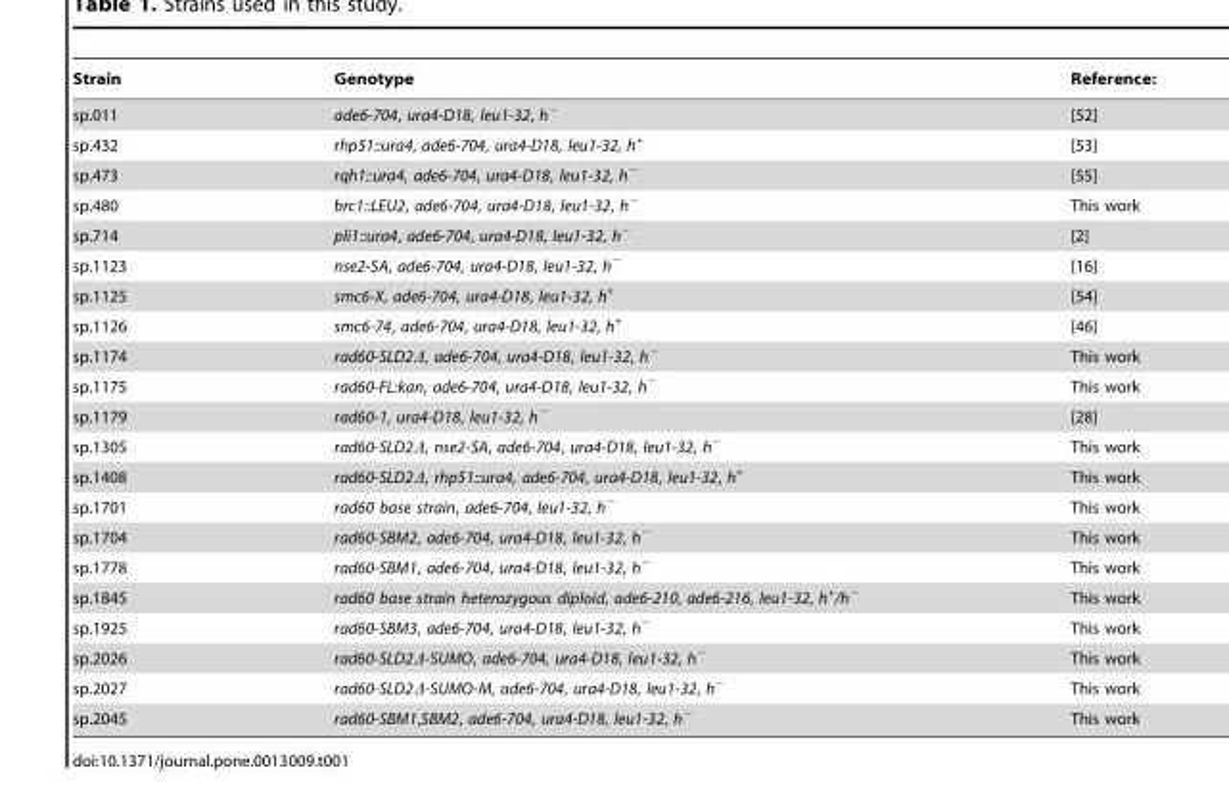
<table><thead><tr><td>Strain</td><td>Genotype</td><td>Reference:</td></tr></thead><tbody><tr><td>sp.011</td><td>ade6-704, ura4-D18, leu1-32, h<sup>−</sup></td><td>[52]</td></tr><tr><td>sp.432</td><td>rhp51::ura4, ade6-704, ura4-D18, leu1-32, h<sup>+</sup></td><td>[53]</td></tr><tr><td>sp.473</td><td>rqh1::ura4, ade6-704, ura4-D18, leu1-32, h<sup>−</sup></td><td>[55]</td></tr><tr><td>sp.480</td><td>brc1::LEU2, ade6-704, ura4-D18, leu1-32, h<sup>−</sup></td><td>This work</td></tr><tr><td>sp.714</td><td>pli1::ura4, ade6-704, ura4-D18, leu1-32, h<sup>−</sup></td><td>[2]</td></tr><tr><td>sp.1123</td><td>nse2-SA, ade6-704, ura4-D18, leu1-32, h<sup>−</sup></td><td>[16]</td></tr><tr><td>sp.1125</td><td>smc6-X, ade6-704, ura4-D18, leu1-32, h<sup>+</sup></td><td>[54]</td></tr><tr><td>sp.1126</td><td>smc6-74, ade6-704, ura4-D18, leu1-32, h<sup>+</sup></td><td>[46]</td></tr><tr><td>sp.1174</td><td>rad60-SLD2Δ, ade6-704, ura4-D18, leu1-32, h<sup>−</sup></td><td>This work</td></tr><tr><td>sp.1175</td><td>rad60-FL:kan, ade6-704, ura4-D18, leu1-32, h<sup>−</sup></td><td>This work</td></tr><tr><td>sp.1179</td><td>rad60-1, ura4-D18, leu1-32, h<sup>−</sup></td><td>[28]</td></tr><tr><td>sp.1305</td><td>rad60-SLD2Δ, nse2-SA, ade6-704, ura4-D18, leu1-32, h<sup>−</sup></td><td>This work</td></tr><tr><td>sp.1408</td><td>rad60-SLD2Δ, rhp51::ura4, ade6-704, ura4-D18, leu1-32, h<sup>+</sup></td><td>This work</td></tr><tr><td>sp.1701</td><td>rad60 base strain, ade6-704, leu1-32, h<sup>−</sup></td><td>This work</td></tr><tr><td>sp.1704</td><td>rad60-SBM2, ade6-704, ura4-D18, leu1-32, h<sup>−</sup></td><td>This work</td></tr><tr><td>sp.1778</td><td>rad60-SBM1, ade6-704, ura4-D18, leu1-32, h<sup>−</sup></td><td>This work</td></tr><tr><td>sp.1845</td><td>rad60 base strain heterozygous diploid, ade6-210, ade6-216, leu1-32, h<sup>+</sup>/h<sup>−</sup></td><td>This work</td></tr><tr><td>sp.1925</td><td>rad60-SBM3, ade6-704, ura4-D18, leu1-32, h<sup>−</sup></td><td>This work</td></tr><tr><td>sp.2026</td><td>rad60-SLD2Δ-SUMO, ade6-704, ura4-D18, leu1-32, h<sup>−</sup></td><td>This work</td></tr><tr><td>sp.2027</td><td>rad60-SLD2Δ-SUMO-M, ade6-704, ura4-D18, leu1-32, h<sup>−</sup></td><td>This work</td></tr><tr><td>sp.2045</td><td>rad60-SBM1,SBM2, ade6-704, ura4-D18, leu1-32, h<sup>−</sup></td><td>This work</td></tr></tbody></table>